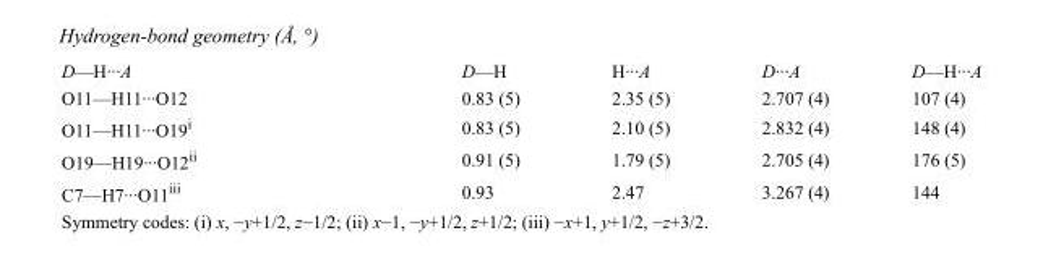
<table><tbody><tr><td>D—H···A</td><td>D—H</td><td>H···A</td><td>D···A</td><td>D—H···A</td></tr><tr><td>O11—H11···O12</td><td>0.83 (5)</td><td>2.35 (5)</td><td>2.707 (4)</td><td>107 (4)</td></tr><tr><td>O11—H11···O19<sup>i</sup></td><td>0.83 (5)</td><td>2.10 (5)</td><td>2.832 (4)</td><td>148 (4)</td></tr><tr><td>O19—H19···O12<sup>ii</sup></td><td>0.91 (5)</td><td>1.79 (5)</td><td>2.705 (4)</td><td>176 (5)</td></tr><tr><td>C7—H7···O11<sup>iii</sup></td><td>0.93</td><td>2.47</td><td>3.267 (4)</td><td>144</td></tr></tbody></table>